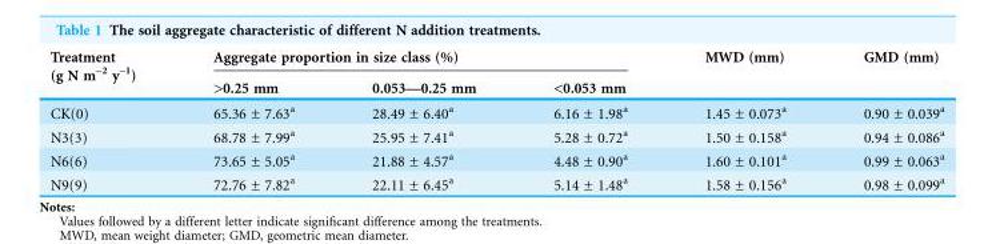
<table><thead><tr><td rowspan="2">Treatment (g N m<sup>-2</sup> y<sup>-1</sup>)</td><td colspan="3">Aggregate proportion in size class (%)</td><td rowspan="2">MWD (mm)</td><td rowspan="2">GMD (mm)</td></tr><tr><td>&gt;0.25 mm</td><td>0.053––0.25 mm</td><td>&lt;0.053 mm</td></tr></thead><tbody><tr><td>CK(0)</td><td>65.36 ± 7.63<sup>a</sup></td><td>28.49 ± 6.40<sup>a</sup></td><td>6.16 ± 1.98<sup>a</sup></td><td>1.45 ± 0.073<sup>a</sup></td><td>0.90 ± 0.039<sup>a</sup></td></tr><tr><td>N3(3)</td><td>68.78 ± 7.99<sup>a</sup></td><td>25.95 ± 7.41<sup>a</sup></td><td>5.28 ± 0.72<sup>a</sup></td><td>1.50 ± 0.158<sup>a</sup></td><td>0.94 ± 0.086<sup>a</sup></td></tr><tr><td>N6(6)</td><td>73.65 ± 5.05<sup>a</sup></td><td>21.88 ± 4.57<sup>a</sup></td><td>4.48 ± 0.90<sup>a</sup></td><td>1.60 ± 0.101<sup>a</sup></td><td>0.99 ± 0.063<sup>a</sup></td></tr><tr><td>N9(9)</td><td>72.76 ± 7.82<sup>a</sup></td><td>22.11 ± 6.45<sup>a</sup></td><td>5.14 ± 1.48<sup>a</sup></td><td>1.58 ± 0.156<sup>a</sup></td><td>0.98 ± 0.099<sup>a</sup></td></tr></tbody></table>